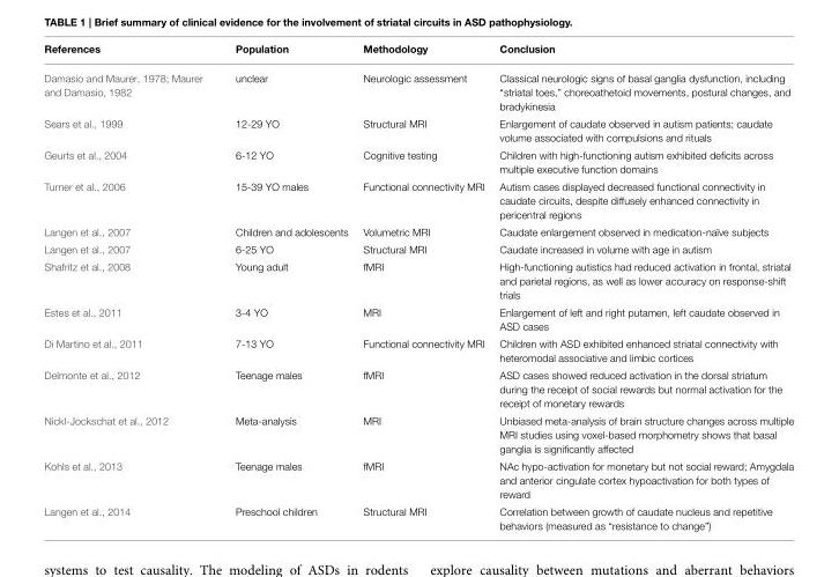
<table><thead><tr><td>References</td><td>Population</td><td>Methodology</td><td>Conclusion</td></tr></thead><tbody><tr><td>Damasio and Maurer, 1978; Maurer and Damasio, 1982</td><td>unclear</td><td>Neurologic assessment</td><td>Classical neurologic signs of basal ganglia dysfunction, including “striatal toes,” choreoathetoid movements, postural changes, and bradykinesia</td></tr><tr><td>Sears et al., 1999</td><td>12-29 YO</td><td>Structural MRI</td><td>Enlargement of caudate observed in autism patients; caudate volume associated with compulsions and rituals</td></tr><tr><td>Geurts et al., 2004</td><td>6-12 YO</td><td>Cognitive testing</td><td>Children with high-functioning autism exhibited deficits across multiple executive function domains</td></tr><tr><td>Turner et al., 2006</td><td>15-39 YO males</td><td>Functional connectivity MRI</td><td>Autism cases displayed decreased functional connectivity in caudate circuits, despite diffusely enhanced connectivity in pericentral regions</td></tr><tr><td>Langen et al., 2007</td><td>Children and adolescents</td><td>Volumetric MRI</td><td>Caudate enlargement observed in medication-naïve subjects</td></tr><tr><td>Langen et al., 2007</td><td>6-25 YO</td><td>Structural MRI</td><td>Caudate increased in volume with age in autism</td></tr><tr><td>Shafritz et al., 2008</td><td>Young adult</td><td>fMRI</td><td>High-functioning autistics had reduced activation in frontal, striatal and parietal regions, as well as lower accuracy on response-shift trials</td></tr><tr><td>Estes et al., 2011</td><td>3-4 YO</td><td>MRI</td><td>Enlargement of left and right putamen, left caudate observed in ASD cases</td></tr><tr><td>Di Martino et al., 2011</td><td>7-13 YO</td><td>Functional connectivity MRI</td><td>Children with ASD exhibited enhanced striatal connectivity with heteromodal associative and limbic cortices</td></tr><tr><td>Delmonte et al., 2012</td><td>Teenage males</td><td>fMRI</td><td>ASD cases showed reduced activation in the dorsal striatum during the receipt of social rewards but normal activation for the receipt of monetary rewards</td></tr><tr><td>Nickl-Jockschat et al., 2012</td><td>Meta-analysis</td><td>MRI</td><td>Unbiased meta-analysis of brain structure changes across multiple MRI studies using voxel-based morphometry shows that basal ganglia is significantly affected</td></tr><tr><td>Kohls et al., 2013</td><td>Teenage males</td><td>fMRI</td><td>NAc hypo-activation for monetary but not social reward; Amygdala and anterior cingulate cortex hypoactivation for both types of reward</td></tr><tr><td>Langen et al., 2014</td><td>Preschool children</td><td>Structural MRI</td><td>Correlation between growth of caudate nucleus and repetitive behaviors (measured as “resistance to change”)</td></tr></tbody></table>